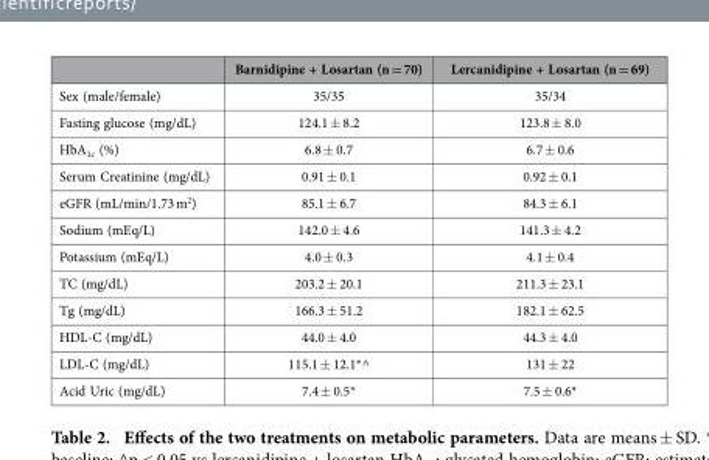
<table><thead><tr><td></td><td>Barnidipine + Losartan (n = 70)</td><td>Lercanidipine + Losartan (n = 69)</td></tr></thead><tbody><tr><td>Sex (male/female)</td><td>35/35</td><td>35/34</td></tr><tr><td>Fasting glucose (mg/dL)</td><td>124.1 ± 8.2</td><td>123.8 ± 8.0</td></tr><tr><td>HbA<sub>1c</sub> (%)</td><td>6.8 ± 0.7</td><td>6.7 ± 0.6</td></tr><tr><td>Serum Creatinine (mg/dL)</td><td>0.91 ± 0.1</td><td>0.92 ± 0.1</td></tr><tr><td>eGFR (mL/min/1.73 m<sup>2</sup>)</td><td>85.1 ± 6.7</td><td>84.3 ± 6.1</td></tr><tr><td>Sodium (mEq/L)</td><td>142.0 ± 4.6</td><td>141.3 ± 4.2</td></tr><tr><td>Potassium (mEq/L)</td><td>4.0 ± 0.3</td><td>4.1 ± 0.4</td></tr><tr><td>TC (mg/dL)</td><td>203.2 ± 20.1</td><td>211.3 ± 23.1</td></tr><tr><td>Tg (mg/dL)</td><td>166.3 ± 51.2</td><td>182.1 ± 62.5</td></tr><tr><td>HDL-C (mg/dL)</td><td>44.0 ± 4.0</td><td>44.3 ± 4.0</td></tr><tr><td>LDL-C (mg/dL)</td><td>115.1 ± 12.1*^</td><td>131 ± 22</td></tr><tr><td>Acid Uric (mg/dL)</td><td>7.4 ± 0.5*</td><td>7.5 ± 0.6*</td></tr></tbody></table>